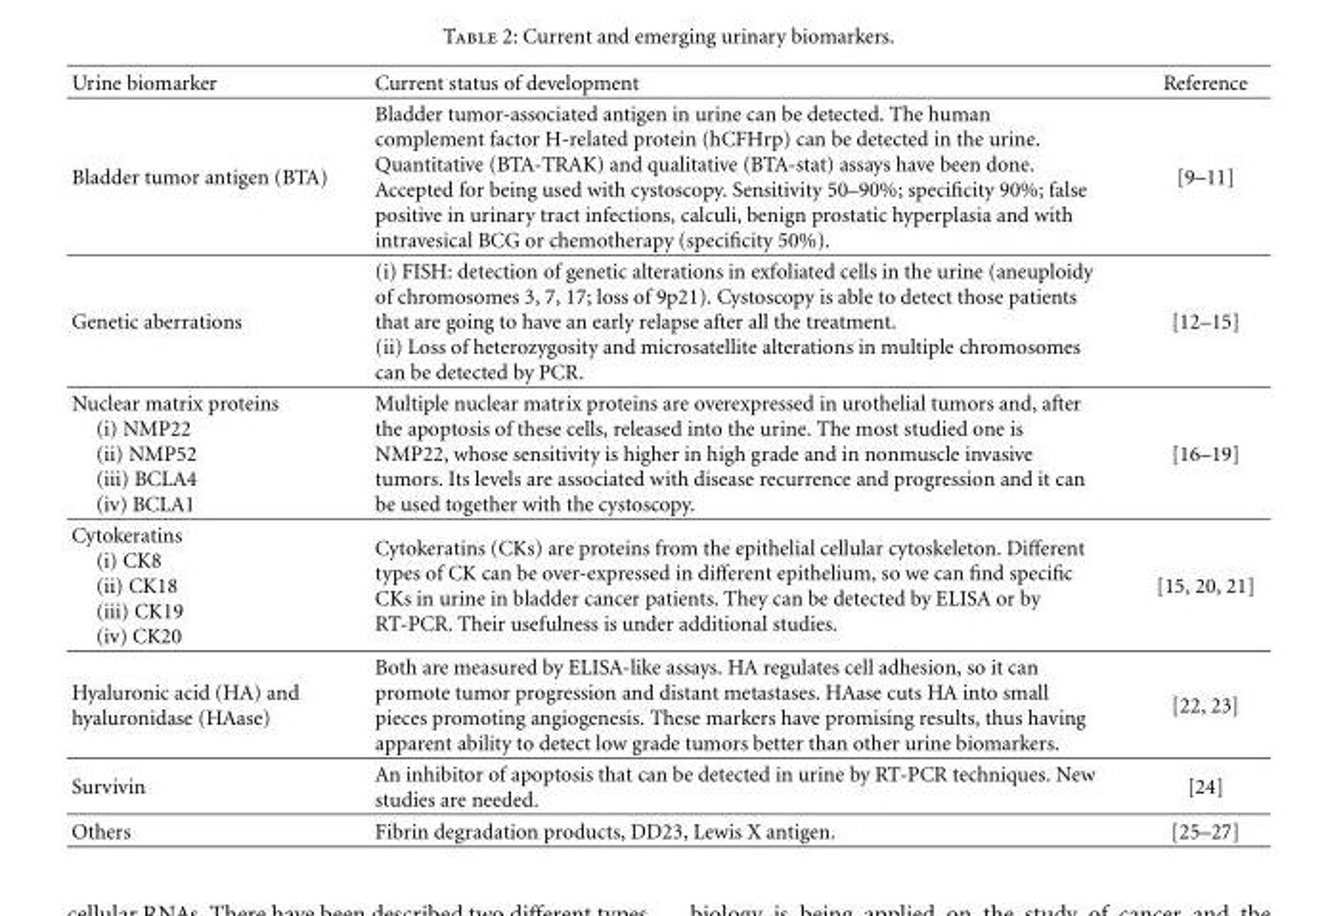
<table><thead><tr><td>Urine biomarker</td><td>Current status of development</td><td>Reference</td></tr></thead><tbody><tr><td>Bladder tumor antigen (BTA)</td><td>Bladder tumor-associated antigen in urine can be detected. The human complement factor H-related protein (hCFHrp) can be detected in the urine. Quantitative (BTA-TRAK) and qualitative (BTA-stat) assays have been done. Accepted for being used with cystoscopy. Sensitivity 50–90%; specificity 90%; false positive in urinary tract infections, calculi, benign prostatic hyperplasia and with intravesical BCG or chemotherapy (specificity 50%).</td><td>[9–11]</td></tr><tr><td>Genetic aberrations</td><td>(i) FISH: detection of genetic alterations in exfoliated cells in the urine (aneuploidy of chromosomes 3, 7, 17; loss of 9p21). Cystoscopy is able to detect those patients that are going to have an early relapse after all the treatment. (ii) Loss of heterozygosity and microsatellite alterations in multiple chromosomes can be detected by PCR.</td><td>[12–15]</td></tr><tr><td>Nuclear matrix proteins (i) NMP22 (ii) NMP52 (iii) BCLA4 (iv) BCLA1</td><td>Multiple nuclear matrix proteins are overexpressed in urothelial tumors and, after the apoptosis of these cells, released into the urine. The most studied one is NMP22, whose sensitivity is higher in high grade and in nonmuscle invasive tumors. Its levels are associated with disease recurrence and progression and it can be used together with the cystoscopy.</td><td>[16–19]</td></tr><tr><td>Cytokeratins (i) CK8 (ii) CK18 (iii) CK19 (iv) CK20</td><td>Cytokeratins (CKs) are proteins from the epithelial cellular cytoskeleton. Different types of CK can be over-expressed in different epithelium, so we can find specific CKs in urine in bladder cancer patients. They can be detected by ELISA or by RT-PCR. Their usefulness is under additional studies.</td><td>[15, 20, 21]</td></tr><tr><td>Hyaluronic acid (HA) and hyaluronidase (HAase)</td><td>Both are measured by ELISA-like assays. HA regulates cell adhesion, so it can promote tumor progression and distant metastases. HAase cuts HA into small pieces promoting angiogenesis. These markers have promising results, thus having apparent ability to detect low grade tumors better than other urine biomarkers.</td><td>[22, 23]</td></tr><tr><td>Survivin</td><td>An inhibitor of apoptosis that can be detected in urine by RT-PCR techniques. New studies are needed.</td><td>[24]</td></tr><tr><td>Others</td><td>Fibrin degradation products, DD23, Lewis X antigen.</td><td>[25–27]</td></tr></tbody></table>